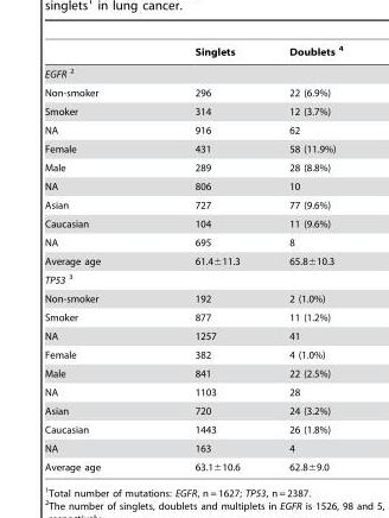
<table><thead><tr><td></td><td>Singlets</td><td>Doublets 4</td></tr></thead><tbody><tr><td colspan="3">EGFR 2</td></tr><tr><td>Non-smoker</td><td>296</td><td>22 (6.9%)</td></tr><tr><td>Smoker</td><td>314</td><td>12 (3.7%)</td></tr><tr><td>NA</td><td>916</td><td>62</td></tr><tr><td>Female</td><td>431</td><td>58 (11.9%)</td></tr><tr><td>Male</td><td>289</td><td>28 (8.8%)</td></tr><tr><td>NA</td><td>806</td><td>10</td></tr><tr><td>Asian</td><td>727</td><td>77 (9.6%)</td></tr><tr><td>Caucasian</td><td>104</td><td>11 (9.6%)</td></tr><tr><td>NA</td><td>695</td><td>8</td></tr><tr><td>Average age</td><td>61.4±11.3</td><td>65.8±10.3</td></tr><tr><td colspan="3">TP53 3</td></tr><tr><td>Non-smoker</td><td>192</td><td>2 (1.0%)</td></tr><tr><td>Smoker</td><td>877</td><td>11 (1.2%)</td></tr><tr><td>NA</td><td>1257</td><td>41</td></tr><tr><td>Female</td><td>382</td><td>4 (1.0%)</td></tr><tr><td>Male</td><td>841</td><td>22 (2.5%)</td></tr><tr><td>NA</td><td>1103</td><td>28</td></tr><tr><td>Asian</td><td>720</td><td>24 (3.2%)</td></tr><tr><td>Caucasian</td><td>1443</td><td>26 (1.8%)</td></tr><tr><td>NA</td><td>163</td><td>4</td></tr><tr><td>Average age</td><td>63.1±10.6</td><td>62.8±9.0</td></tr></tbody></table>